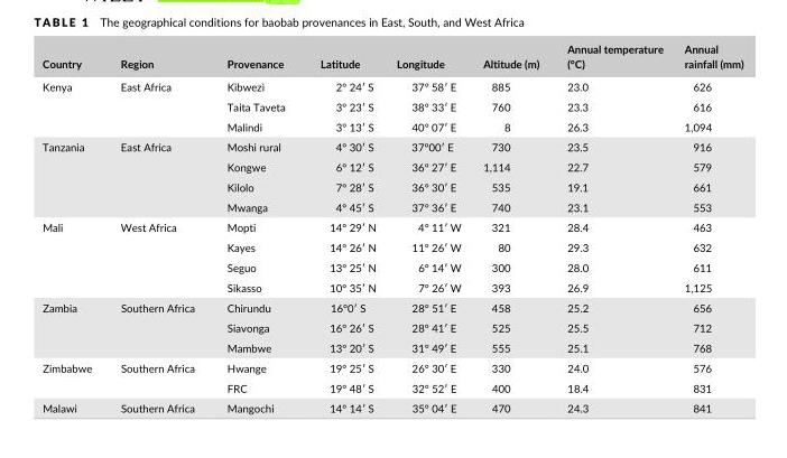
<table><thead><tr><td>Country</td><td>Region</td><td>Provenance</td><td>Latitude</td><td>Longitude</td><td>Altitude (m)</td><td>Annual temperature (°C)</td><td>Annual rainfall (mm)</td></tr></thead><tbody><tr><td rowspan="3">Kenya</td><td rowspan="3">East Africa</td><td>Kibwezi</td><td>2° 24′ S</td><td>37° 58′ E</td><td>885</td><td>23.0</td><td>626</td></tr><tr><td>Taita Taveta</td><td>3° 23′ S</td><td>38° 33′ E</td><td>760</td><td>23.3</td><td>616</td></tr><tr><td>Malindi</td><td>3° 13′ S</td><td>40° 07′ E</td><td>8</td><td>26.3</td><td>1,094</td></tr><tr><td rowspan="4">Tanzania</td><td rowspan="4">East Africa</td><td>Moshi rural</td><td>4° 30′ S</td><td>37°00′ E</td><td>730</td><td>23.5</td><td>916</td></tr><tr><td>Kongwe</td><td>6° 12′ S</td><td>36° 27′ E</td><td>1,114</td><td>22.7</td><td>579</td></tr><tr><td>Kilolo</td><td>7° 28′ S</td><td>36° 30′ E</td><td>535</td><td>19.1</td><td>661</td></tr><tr><td>Mwanga</td><td>4° 45′ S</td><td>37° 36′ E</td><td>740</td><td>23.1</td><td>553</td></tr><tr><td rowspan="4">Mali</td><td rowspan="4">West Africa</td><td>Mopti</td><td>14° 29′ N</td><td>4° 11′ W</td><td>321</td><td>28.4</td><td>463</td></tr><tr><td>Kayes</td><td>14° 26′ N</td><td>11° 26′ W</td><td>80</td><td>29.3</td><td>632</td></tr><tr><td>Seguo</td><td>13° 25′ N</td><td>6° 14′ W</td><td>300</td><td>28.0</td><td>611</td></tr><tr><td>Sikasso</td><td>10° 35′ N</td><td>7° 26′ W</td><td>393</td><td>26.9</td><td>1,125</td></tr><tr><td rowspan="3">Zambia</td><td rowspan="3">Southern Africa</td><td>Chirundu</td><td>16°0′ S</td><td>28° 51′ E</td><td>458</td><td>25.2</td><td>656</td></tr><tr><td>Siavonga</td><td>16° 26′ S</td><td>28° 41′ E</td><td>525</td><td>25.5</td><td>712</td></tr><tr><td>Mambwe</td><td>13° 20′ S</td><td>31° 49′ E</td><td>555</td><td>25.1</td><td>768</td></tr><tr><td rowspan="2">Zimbabwe</td><td rowspan="2">Southern Africa</td><td>Hwange</td><td>19° 25′ S</td><td>26° 30′ E</td><td>330</td><td>24.0</td><td>576</td></tr><tr><td>FRC</td><td>19° 48′ S</td><td>32° 52′ E</td><td>400</td><td>18.4</td><td>831</td></tr><tr><td>Malawi</td><td>Southern Africa</td><td>Mangochi</td><td>14° 14′ S</td><td>35° 04′ E</td><td>470</td><td>24.3</td><td>841</td></tr></tbody></table>